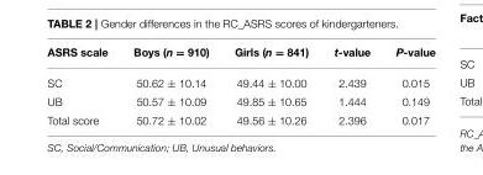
<table><thead><tr><td>ASRS scale</td><td>Boys (n = 910)</td><td>Girls (n = 841)</td><td>t-value</td><td>P-value</td></tr></thead><tbody><tr><td>SC</td><td>50.62 ± 10.14</td><td>49.44 ± 10.00</td><td>2.439</td><td>0.015</td></tr><tr><td>UB</td><td>50.57 ± 10.09</td><td>49.85 ± 10.65</td><td>1.444</td><td>0.149</td></tr><tr><td>Total score</td><td>50.72 ± 10.02</td><td>49.56 ± 10.26</td><td>2.396</td><td>0.017</td></tr></tbody></table>